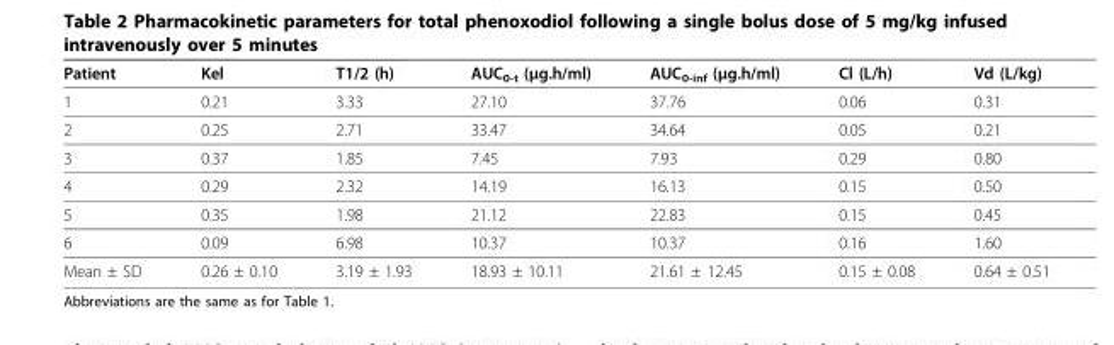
<table><thead><tr><td>Patient</td><td>Kel</td><td>T1/2 (h)</td><td>AUC<sub>0-t</sub> (μg.h/ml)</td><td>AUC<sub>0-inf</sub> (μg.h/ml)</td><td>Cl (L/h)</td><td>Vd (L/kg)</td></tr></thead><tbody><tr><td>1</td><td>0.21</td><td>3.33</td><td>27.10</td><td>37.76</td><td>0.06</td><td>0.31</td></tr><tr><td>2</td><td>0.25</td><td>2.71</td><td>33.47</td><td>34.64</td><td>0.05</td><td>0.21</td></tr><tr><td>3</td><td>0.37</td><td>1.85</td><td>7.45</td><td>7.93</td><td>0.29</td><td>0.80</td></tr><tr><td>4</td><td>0.29</td><td>2.32</td><td>14.19</td><td>16.13</td><td>0.15</td><td>0.50</td></tr><tr><td>5</td><td>0.35</td><td>1.98</td><td>21.12</td><td>22.83</td><td>0.15</td><td>0.45</td></tr><tr><td>6</td><td>0.09</td><td>6.98</td><td>10.37</td><td>10.37</td><td>0.16</td><td>1.60</td></tr><tr><td>Mean ± SD</td><td>0.26 ± 0.10</td><td>3.19 ± 1.93</td><td>18.93 ± 10.11</td><td>21.61 ± 12.45</td><td>0.15 ± 0.08</td><td>0.64 ± 0.51</td></tr></tbody></table>